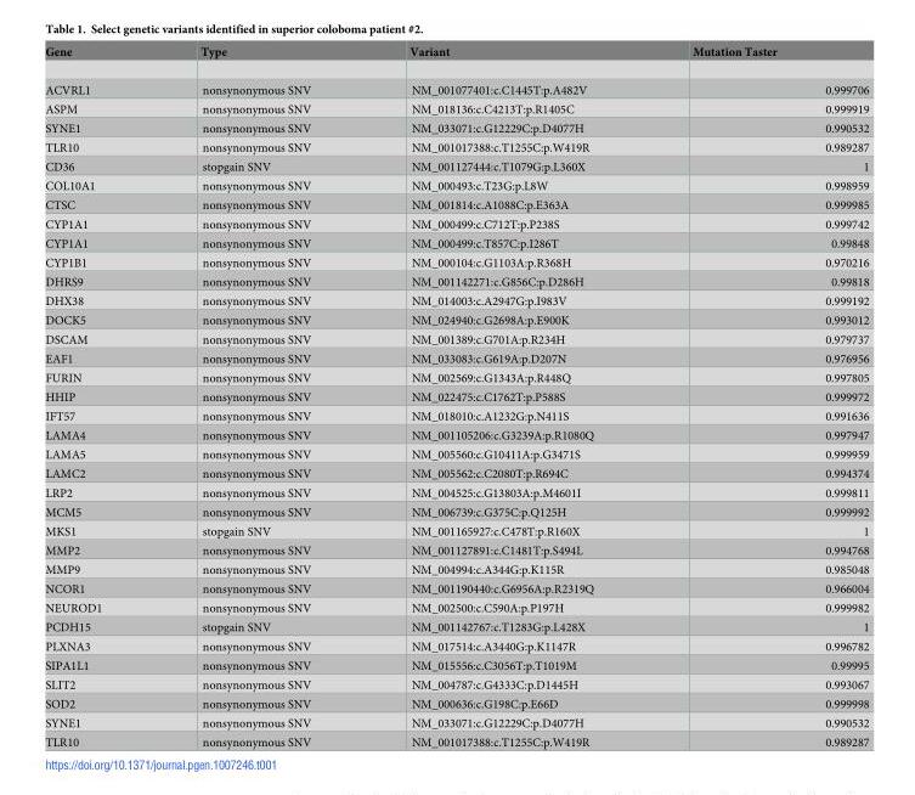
<table><thead><tr><td>Gene</td><td>Type</td><td>Variant</td><td>Mutation Taster</td></tr></thead><tbody><tr><td>ACVRL1</td><td>nonsynonymous SNV</td><td>NM_001077401:c.C1445T:p.A482V</td><td>0.999706</td></tr><tr><td>ASPM</td><td>nonsynonymous SNV</td><td>NM_018136:c.C4213T:p.R1405C</td><td>0.999919</td></tr><tr><td>SYNE1</td><td>nonsynonymous SNV</td><td>NM_033071:c.G12229C:p.D4077H</td><td>0.990532</td></tr><tr><td>TLR10</td><td>nonsynonymous SNV</td><td>NM_001017388:c.T1255C:p.W419R</td><td>0.989287</td></tr><tr><td>CD36</td><td>stopgain SNV</td><td>NM_001127444:c.T1079G:p.L360X</td><td>1</td></tr><tr><td>COL10A1</td><td>nonsynonymous SNV</td><td>NM_000493:c.T23G:p.L8W</td><td>0.998959</td></tr><tr><td>CTSC</td><td>nonsynonymous SNV</td><td>NM_001814:c.A1088C:p.E363A</td><td>0.999985</td></tr><tr><td>CYP1A1</td><td>nonsynonymous SNV</td><td>NM_000499:c.C712T:p.P238S</td><td>0.999742</td></tr><tr><td>CYP1A1</td><td>nonsynonymous SNV</td><td>NM_000499:c.T857C:p.I286T</td><td>0.99848</td></tr><tr><td>CYP1B1</td><td>nonsynonymous SNV</td><td>NM_000104:c.G1103A:p.R368H</td><td>0.970216</td></tr><tr><td>DHRS9</td><td>nonsynonymous SNV</td><td>NM_001142271:c.G856C:p.D286H</td><td>0.99818</td></tr><tr><td>DHX38</td><td>nonsynonymous SNV</td><td>NM_014003:c.A2947G:p.I983V</td><td>0.999192</td></tr><tr><td>DOCK5</td><td>nonsynonymous SNV</td><td>NM_024940:c.G2698A:p.E900K</td><td>0.993012</td></tr><tr><td>DSCAM</td><td>nonsynonymous SNV</td><td>NM_001389:c.G701A:p.R234H</td><td>0.979737</td></tr><tr><td>EAF1</td><td>nonsynonymous SNV</td><td>NM_033083:c.G619A:p.D207N</td><td>0.976956</td></tr><tr><td>FURIN</td><td>nonsynonymous SNV</td><td>NM_002569:c.G1343A:p.R448Q</td><td>0.997805</td></tr><tr><td>HHIP</td><td>nonsynonymous SNV</td><td>NM_022475:c.C1762T:p.P588S</td><td>0.999972</td></tr><tr><td>IFT57</td><td>nonsynonymous SNV</td><td>NM_018010:c.A1232G:p.N411S</td><td>0.991636</td></tr><tr><td>LAMA4</td><td>nonsynonymous SNV</td><td>NM_001105206:c.G3239A:p.R1080Q</td><td>0.997947</td></tr><tr><td>LAMA5</td><td>nonsynonymous SNV</td><td>NM_005560:c.G10411A:p.G3471S</td><td>0.999959</td></tr><tr><td>LAMC2</td><td>nonsynonymous SNV</td><td>NM_005562:c.C2080T:p.R694C</td><td>0.994374</td></tr><tr><td>LRP2</td><td>nonsynonymous SNV</td><td>NM_004525:c.G13803A:p.M4601I</td><td>0.999811</td></tr><tr><td>MCM5</td><td>nonsynonymous SNV</td><td>NM_006739:c.G375C:p.Q125H</td><td>0.999992</td></tr><tr><td>MKS1</td><td>stopgain SNV</td><td>NM_001165927:c.C478T:p.R160X</td><td>1</td></tr><tr><td>MMP2</td><td>nonsynonymous SNV</td><td>NM_001127891:c.C1481T:p.S494L</td><td>0.994768</td></tr><tr><td>MMP9</td><td>nonsynonymous SNV</td><td>NM_004994:c.A344G:p.K115R</td><td>0.985048</td></tr><tr><td>NCOR1</td><td>nonsynonymous SNV</td><td>NM_001190440:c.G6956A:p.R2319Q</td><td>0.966004</td></tr><tr><td>NEUROD1</td><td>nonsynonymous SNV</td><td>NM_002500:c.C590A:p.P197H</td><td>0.999982</td></tr><tr><td>PCDH15</td><td>stopgain SNV</td><td>NM_001142767:c.T1283G:p.L428X</td><td>1</td></tr><tr><td>PLXNA3</td><td>nonsynonymous SNV</td><td>NM_017514:c.A3440G:p.K1147R</td><td>0.996782</td></tr><tr><td>SIPA1L1</td><td>nonsynonymous SNV</td><td>NM_015556:c.C3056T:p.T1019M</td><td>0.99995</td></tr><tr><td>SLIT2</td><td>nonsynonymous SNV</td><td>NM_004787:c.G4333C:p.D1445H</td><td>0.993067</td></tr><tr><td>SOD2</td><td>nonsynonymous SNV</td><td>NM_000636:c.G198C:p.E66D</td><td>0.999998</td></tr><tr><td>SYNE1</td><td>nonsynonymous SNV</td><td>NM_033071:c.G12229C:p.D4077H</td><td>0.990532</td></tr><tr><td>TLR10</td><td>nonsynonymous SNV</td><td>NM_001017388:c.T1255C:p.W419R</td><td>0.989287</td></tr></tbody></table>